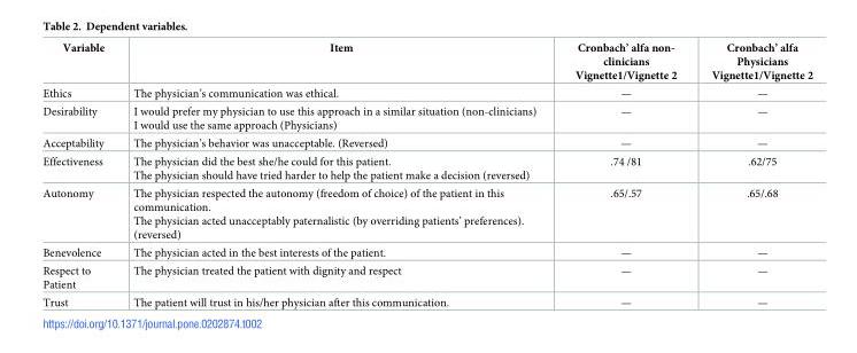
<table><thead><tr><td>Variable</td><td>Item</td><td>Cronbach’ alfa non- clinicians Vignette1/Vignette 2</td><td>Cronbach’ alfa Physicians Vignette1/Vignette 2</td></tr></thead><tbody><tr><td>Ethics</td><td>The physician’s communication was ethical.</td><td>—</td><td>—</td></tr><tr><td>Desirability</td><td>I would prefer my physician to use this approach in a similar situation (non-clinicians) I would use the same approach (Physicians)</td><td>—</td><td>—</td></tr><tr><td>Acceptability</td><td>The physician’s behavior was unacceptable. (Reversed)</td><td>—</td><td>—</td></tr><tr><td>Effectiveness</td><td>The physician did the best she/he could for this patient. The physician should have tried harder to help the patient make a decision (reversed)</td><td>.74 /81</td><td>.62/75</td></tr><tr><td>Autonomy</td><td>The physician respected the autonomy (freedom of choice) of the patient in this communication. The physician acted unacceptably paternalistic (by overriding patients’ preferences). (reversed)</td><td>.65/.57</td><td>.65/.68</td></tr><tr><td>Benevolence</td><td>The physician acted in the best interests of the patient.</td><td>—</td><td>—</td></tr><tr><td>Respect to Patient</td><td>The physician treated the patient with dignity and respect</td><td>—</td><td>—</td></tr><tr><td>Trust</td><td>The patient will trust in his/her physician after this communication.</td><td>—</td><td>—</td></tr></tbody></table>